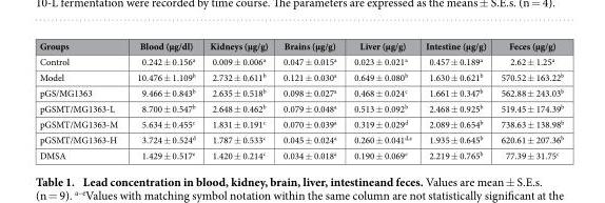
<table><thead><tr><td>Groups</td><td>Blood (μg/dl)</td><td>Kidneys (μg/g)</td><td>Brains (μg/g)</td><td>Liver (μg/g)</td><td>Intestine (μg/g)</td><td>Feces (μg/g)</td></tr></thead><tbody><tr><td>Control</td><td>0.242 ± 0.156<sup>a</sup></td><td>0.009 ± 0.006<sup>a</sup></td><td>0.047 ± 0.015<sup>a</sup></td><td>0.023 ± 0.021<sup>a</sup></td><td>0.457 ± 0.189<sup>a</sup></td><td>2.62 ± 1.25<sup>a</sup></td></tr><tr><td>Model</td><td>10.476 ± 1.109<sup>b</sup></td><td>2.732 ± 0.611<sup>b</sup></td><td>0.121 ± 0.030<sup>a</sup></td><td>0.649 ± 0.080<sup>b</sup></td><td>1.630 ± 0.621<sup>b</sup></td><td>570.52 ± 163.22<sup>b</sup></td></tr><tr><td>pGS/MG1363</td><td>9.466 ± 0.843<sup>b</sup></td><td>2.635 ± 0.518<sup>b</sup></td><td>0.098 ± 0.027<sup>a</sup></td><td>0.468 ± 0.024<sup>c</sup></td><td>1.661 ± 0.347<sup>b</sup></td><td>562.88 ± 243.03<sup>b</sup></td></tr><tr><td>pGSMT/MG1363-L</td><td>8.700 ± 0.547<sup>b</sup></td><td>2.648 ± 0.462<sup>b</sup></td><td>0.079 ± 0.048<sup>a</sup></td><td>0.513 ± 0.092<sup>b</sup></td><td>2.468 ± 0.925<sup>b</sup></td><td>519.45 ± 174.39<sup>b</sup></td></tr><tr><td>pGSMT/MG1363-M</td><td>5.634 ± 0.455<sup>c</sup></td><td>1.831 ± 0.191<sup>c</sup></td><td>0.070 ± 0.039<sup>a</sup></td><td>0.319 ± 0.029<sup>d</sup></td><td>2.089 ± 0.654<sup>b</sup></td><td>738.63 ± 138.98<sup>b</sup></td></tr><tr><td>pGSMT/MG1363-H</td><td>3.724 ± 0.524<sup>d</sup></td><td>1.787 ± 0.533<sup>c</sup></td><td>0.045 ± 0.024<sup>a</sup></td><td>0.260 ± 0.041d,e</td><td>1.935 ± 0.645<sup>b</sup></td><td>620.61 ± 207.36<sup>b</sup></td></tr><tr><td>DMSA</td><td>1.429 ± 0.517<sup>e</sup></td><td>1.420 ± 0.214<sup>c</sup></td><td>0.034 ± 0.018<sup>a</sup></td><td>0.190 ± 0.069<sup>e</sup></td><td>2.219 ± 0.765<sup>b</sup></td><td>77.39 ± 31.75<sup>c</sup></td></tr></tbody></table>